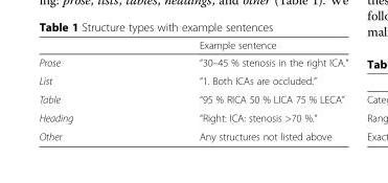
<table><thead><tr><td></td><td>Example sentence</td></tr></thead><tbody><tr><td>Prose</td><td>“30–45 % stenosis in the right ICA.”</td></tr><tr><td>List</td><td>“1. Both ICAs are occluded.”</td></tr><tr><td>Table</td><td>“95 % RICA 50 % LICA 75 % LECA”</td></tr><tr><td>Heading</td><td>“Right: ICA: stenosis &gt;70 %.”</td></tr><tr><td>Other</td><td>Any structures not listed above</td></tr></tbody></table>